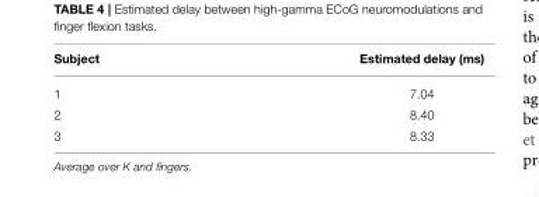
<table><thead><tr><td>Subject</td><td>Estimated delay (ms)</td></tr></thead><tbody><tr><td>1</td><td>7.04</td></tr><tr><td>2</td><td>8.40</td></tr><tr><td>3</td><td>8.33</td></tr></tbody></table>